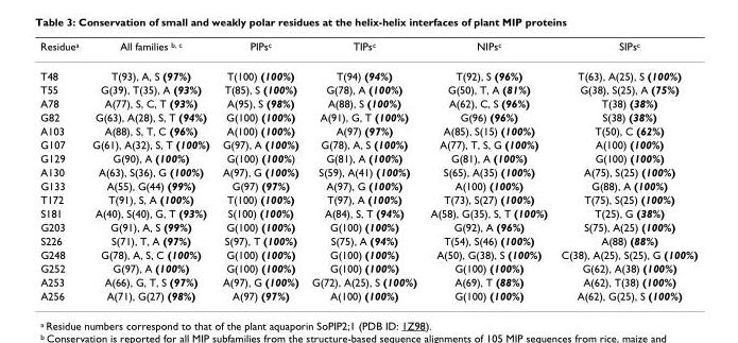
<table><thead><tr><td>Residuea</td><td>All families b, c</td><td>PIPsc</td><td>TIPsc</td><td>NIPsc</td><td>SIPsc</td></tr></thead><tbody><tr><td>T48</td><td>T(93), A, S (97%)</td><td>T(100) (100%)</td><td>T(94) (94%)</td><td>T(92), S (96%)</td><td>T(63), A(25), S (100%)</td></tr><tr><td>T55</td><td>G(39), T(35), A (93%)</td><td>T(85), S (100%)</td><td>G(78), A (100%)</td><td>G(50), T, A (81%)</td><td>G(38), S(25), A (75%)</td></tr><tr><td>A78</td><td>A(77), S, C, T (93%)</td><td>A(95), S (98%)</td><td>A(88), S (100%)</td><td>A(62), C, S (96%)</td><td>T(38) (38%)</td></tr><tr><td>G82</td><td>G(63), A(28), S, T (94%)</td><td>G(100) (100%)</td><td>A(91), G, T (100%)</td><td>G(96) (96%)</td><td>S(38) (38%)</td></tr><tr><td>A103</td><td>A(88), S, T, C (96%)</td><td>A(100) (100%)</td><td>A(97) (97%)</td><td>A(85), S(15) (100%)</td><td>T(50), C (62%)</td></tr><tr><td>G107</td><td>G(61), A(32), S, T (100%)</td><td>G(97), A (100%)</td><td>G(78), A, S (100%)</td><td>A(77), T, S, G (100%)</td><td>A(100) (100%)</td></tr><tr><td>G129</td><td>G(90), A (100%)</td><td>G(100) (100%)</td><td>G(81), A (100%)</td><td>G(81), A (100%)</td><td>G(100) (100%)</td></tr><tr><td>A130</td><td>A(63), S(36), G (100%)</td><td>A(97), G (100%)</td><td>S(59), A(41) (100%)</td><td>S(65), A(35) (100%)</td><td>A(75), S(25) (100%)</td></tr><tr><td>G133</td><td>A(55), G(44) (99%)</td><td>G(97) (97%)</td><td>A(97), G (100%)</td><td>A(100) (100%)</td><td>G(88), A (100%)</td></tr><tr><td>T172</td><td>T(91), S, A (100%)</td><td>T(100) (100%)</td><td>T(97), A (100%)</td><td>T(73), S(27) (100%)</td><td>T(75), S(25) (100%)</td></tr><tr><td>S181</td><td>A(40), S(40), G, T (93%)</td><td>S(100) (100%)</td><td>A(84), S, T (94%)</td><td>A(58), G(35), S, T (100%)</td><td>T(25), G (38%)</td></tr><tr><td>G203</td><td>G(91), A, S (99%)</td><td>G(100) (100%)</td><td>G(100) (100%)</td><td>G(92), A (96%)</td><td>S(75), A(25) (100%)</td></tr><tr><td>S226</td><td>S(71), T, A (97%)</td><td>S(97), T (100%)</td><td>S(75), A (94%)</td><td>T(54), S(46) (100%)</td><td>A(88) (88%)</td></tr><tr><td>G248</td><td>G(78), A, S, C (100%)</td><td>G(100) (100%)</td><td>G(100) (100%)</td><td>A(50), G(38), S (100%)</td><td>C(38), A(25), S(25), G (100%)</td></tr><tr><td>G252</td><td>G(97), A (100%)</td><td>G(100) (100%)</td><td>G(100) (100%)</td><td>G(100) (100%)</td><td>G(62), A(38) (100%)</td></tr><tr><td>A253</td><td>A(66), G, T, S (97%)</td><td>A(97), G (100%)</td><td>G(72), A(25), S (100%)</td><td>A(69), T (88%)</td><td>A(62), T(38) (100%)</td></tr><tr><td>A256</td><td>A(71), G(27) (98%)</td><td>A(97) (97%)</td><td>A(100) (100%)</td><td>G(100) (100%)</td><td>A(62), G(25), S (100%)</td></tr></tbody></table>